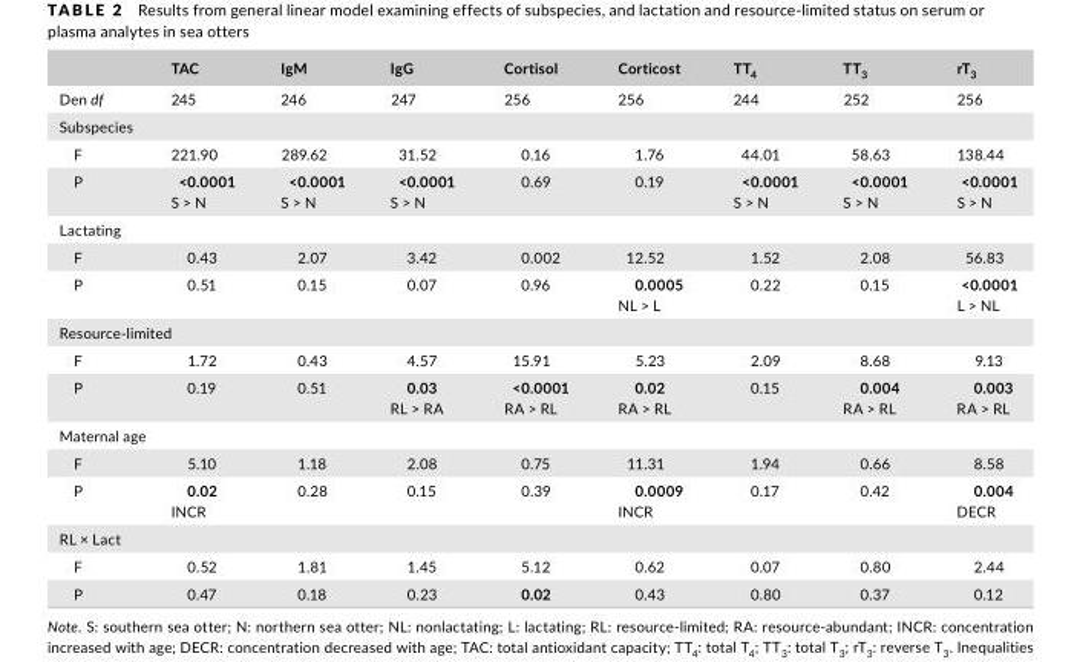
<table><thead><tr><td></td><td>TAC</td><td>IgM</td><td>IgG</td><td>Cortisol</td><td>Corticost</td><td>TT<sub>4</sub></td><td>TT<sub>3</sub></td><td>rT<sub>3</sub></td></tr></thead><tbody><tr><td>Den df</td><td>245</td><td>246</td><td>247</td><td>256</td><td>256</td><td>244</td><td>252</td><td>256</td></tr><tr><td colspan="9">Subspecies</td></tr><tr><td>F</td><td>221.90</td><td>289.62</td><td>31.52</td><td>0.16</td><td>1.76</td><td>44.01</td><td>58.63</td><td>138.44</td></tr><tr><td>P</td><td>&lt;0.0001 S &gt; N</td><td>&lt;0.0001 S &gt; N</td><td>&lt;0.0001 S &gt; N</td><td>0.69</td><td>0.19</td><td>&lt;0.0001 S &gt; N</td><td>&lt;0.0001 S &gt; N</td><td>&lt;0.0001 S &gt; N</td></tr><tr><td colspan="9">Lactating</td></tr><tr><td>F</td><td>0.43</td><td>2.07</td><td>3.42</td><td>0.002</td><td>12.52</td><td>1.52</td><td>2.08</td><td>56.83</td></tr><tr><td>P</td><td>0.51</td><td>0.15</td><td>0.07</td><td>0.96</td><td>0.0005 NL &gt; L</td><td>0.22</td><td>0.15</td><td>&lt;0.0001 L &gt; NL</td></tr><tr><td colspan="9">Resource- limited</td></tr><tr><td>F</td><td>1.72</td><td>0.43</td><td>4.57</td><td>15.91</td><td>5.23</td><td>2.09</td><td>8.68</td><td>9.13</td></tr><tr><td>P</td><td>0.19</td><td>0.51</td><td>0.03 RL &gt; RA</td><td>&lt;0.0001 RA &gt; RL</td><td>0.02 RA &gt; RL</td><td>0.15</td><td>0.004 RA &gt; RL</td><td>0.003 RA &gt; RL</td></tr><tr><td colspan="9">Maternal age</td></tr><tr><td>F</td><td>5.10</td><td>1.18</td><td>2.08</td><td>0.75</td><td>11.31</td><td>1.94</td><td>0.66</td><td>8.58</td></tr><tr><td>P</td><td>0.02 INCR</td><td>0.28</td><td>0.15</td><td>0.39</td><td>0.0009 INCR</td><td>0.17</td><td>0.42</td><td>0.004 DECR</td></tr><tr><td colspan="9">RL × Lact</td></tr><tr><td>F</td><td>0.52</td><td>1.81</td><td>1.45</td><td>5.12</td><td>0.62</td><td>0.07</td><td>0.80</td><td>2.44</td></tr><tr><td>P</td><td>0.47</td><td>0.18</td><td>0.23</td><td>0.02</td><td>0.43</td><td>0.80</td><td>0.37</td><td>0.12</td></tr></tbody></table>